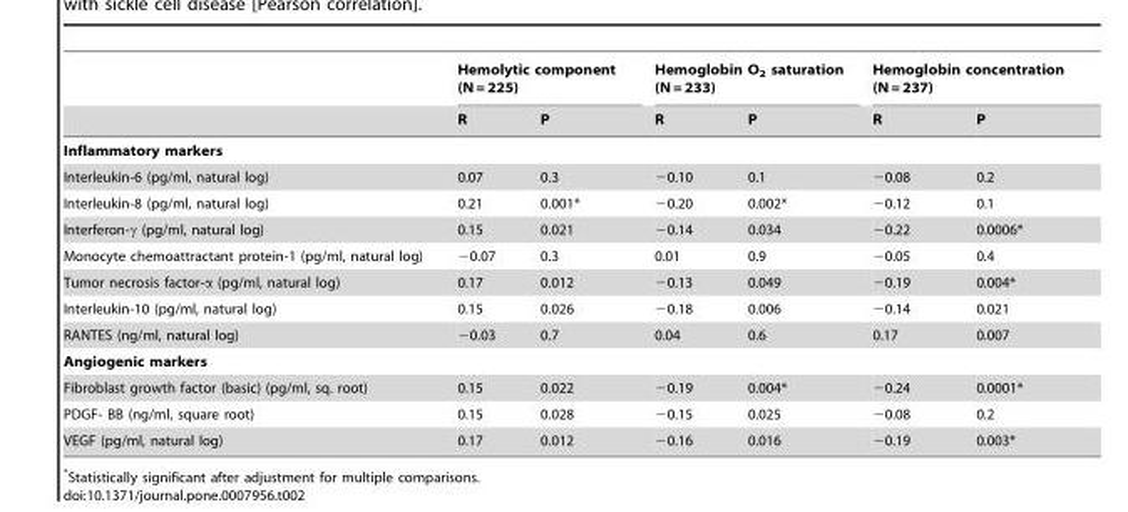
<table><thead><tr><td rowspan="2"></td><td colspan="2">Hemolytic component (N = 225)</td><td colspan="2">Hemoglobin O<sub>2</sub> saturation (N = 233)</td><td colspan="2">Hemoglobin concentration (N = 237)</td></tr><tr><td>R</td><td>P</td><td>R</td><td>P</td><td>R</td><td>P</td></tr></thead><tbody><tr><td colspan="7">Inflammatory markers</td></tr><tr><td>Interleukin-6 (pg/ml, natural log)</td><td>0.07</td><td>0.3</td><td>−0.10</td><td>0.1</td><td>−0.08</td><td>0.2</td></tr><tr><td>Interleukin-8 (pg/ml, natural log)</td><td>0.21</td><td>0.001*</td><td>−0.20</td><td>0.002*</td><td>−0.12</td><td>0.1</td></tr><tr><td>Interferon-γ (pg/ml, natural log)</td><td>0.15</td><td>0.021</td><td>−0.14</td><td>0.034</td><td>−0.22</td><td>0.0006*</td></tr><tr><td>Monocyte chemoattractant protein-1 (pg/ml, natural log)</td><td>−0.07</td><td>0.3</td><td>0.01</td><td>0.9</td><td>−0.05</td><td>0.4</td></tr><tr><td>Tumor necrosis factor-α (pg/ml, natural log)</td><td>0.17</td><td>0.012</td><td>−0.13</td><td>0.049</td><td>−0.19</td><td>0.004*</td></tr><tr><td>Interleukin-10 (pg/ml, natural log)</td><td>0.15</td><td>0.026</td><td>−0.18</td><td>0.006</td><td>−0.14</td><td>0.021</td></tr><tr><td>RANTES (ng/ml, natural log)</td><td>−0.03</td><td>0.7</td><td>0.04</td><td>0.6</td><td>0.17</td><td>0.007</td></tr><tr><td colspan="7">Angiogenic markers</td></tr><tr><td>Fibroblast growth factor (basic) (pg/ml, sq. root)</td><td>0.15</td><td>0.022</td><td>−0.19</td><td>0.004*</td><td>−0.24</td><td>0.0001*</td></tr><tr><td>PDGF- BB (ng/ml, square root)</td><td>0.15</td><td>0.028</td><td>−0.15</td><td>0.025</td><td>−0.08</td><td>0.2</td></tr><tr><td>VEGF (pg/ml, natural log)</td><td>0.17</td><td>0.012</td><td>−0.16</td><td>0.016</td><td>−0.19</td><td>0.003*</td></tr></tbody></table>